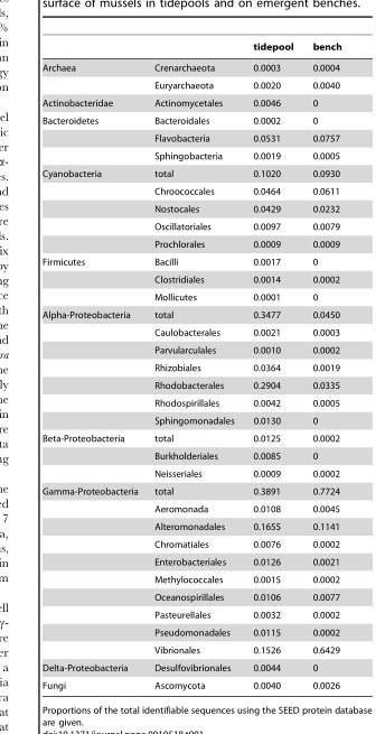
<table><thead><tr><td></td><td></td><td>tidepool</td><td>bench</td></tr></thead><tbody><tr><td rowspan="2">Archaea</td><td>Crenarchaeota</td><td>0.0003</td><td>0.0004</td></tr><tr><td>Euryarchaeota</td><td>0.0020</td><td>0.0040</td></tr><tr><td>Actinobacteridae</td><td>Actinomycetales</td><td>0.0046</td><td>0</td></tr><tr><td rowspan="3">Bacteroidetes</td><td>Bacteroidales</td><td>0.0002</td><td>0</td></tr><tr><td>Flavobacteria</td><td>0.0531</td><td>0.0757</td></tr><tr><td>Sphingobacteria</td><td>0.0019</td><td>0.0005</td></tr><tr><td rowspan="5">Cyanobacteria</td><td>total</td><td>0.1020</td><td>0.0930</td></tr><tr><td>Chroococcales</td><td>0.0464</td><td>0.0611</td></tr><tr><td>Nostocales</td><td>0.0429</td><td>0.0232</td></tr><tr><td>Oscillatoriales</td><td>0.0097</td><td>0.0079</td></tr><tr><td>Prochlorales</td><td>0.0009</td><td>0.0009</td></tr><tr><td rowspan="3">Firmicutes</td><td>Bacilli</td><td>0.0017</td><td>0</td></tr><tr><td>Clostridiales</td><td>0.0014</td><td>0.0002</td></tr><tr><td>Mollicutes</td><td>0.0001</td><td>0</td></tr><tr><td rowspan="7">Alpha-Proteobacteria</td><td>total</td><td>0.3477</td><td>0.0450</td></tr><tr><td>Caulobacterales</td><td>0.0021</td><td>0.0003</td></tr><tr><td>Parvularculales</td><td>0.0010</td><td>0.0002</td></tr><tr><td>Rhizobiales</td><td>0.0364</td><td>0.0019</td></tr><tr><td>Rhodobacterales</td><td>0.2904</td><td>0.0335</td></tr><tr><td>Rhodospirillales</td><td>0.0042</td><td>0.0005</td></tr><tr><td>Sphingomonadales</td><td>0.0130</td><td>0</td></tr><tr><td rowspan="3">Beta-Proteobacteria</td><td>total</td><td>0.0125</td><td>0.0002</td></tr><tr><td>Burkholderiales</td><td>0.0085</td><td>0</td></tr><tr><td>Neisseriales</td><td>0.0009</td><td>0.0002</td></tr><tr><td rowspan="10">Gamma-Proteobacteria</td><td>total</td><td>0.3891</td><td>0.7724</td></tr><tr><td>Aeromonada</td><td>0.0108</td><td>0.0045</td></tr><tr><td>Alteromonadales</td><td>0.1655</td><td>0.1141</td></tr><tr><td>Chromatiales</td><td>0.0076</td><td>0.0002</td></tr><tr><td>Enterobacteriales</td><td>0.0126</td><td>0.0021</td></tr><tr><td>Methylococcales</td><td>0.0015</td><td>0.0002</td></tr><tr><td>Oceanospirillales</td><td>0.0106</td><td>0.0077</td></tr><tr><td>Pasteurellales</td><td>0.0032</td><td>0.0002</td></tr><tr><td>Pseudomonadales</td><td>0.0115</td><td>0.0002</td></tr><tr><td>Vibrionales</td><td>0.1526</td><td>0.6429</td></tr><tr><td>Delta-Proteobacteria</td><td>Desulfovibrionales</td><td>0.0044</td><td>0</td></tr><tr><td>Fungi</td><td>Ascomycota</td><td>0.0040</td><td>0.0026</td></tr></tbody></table>